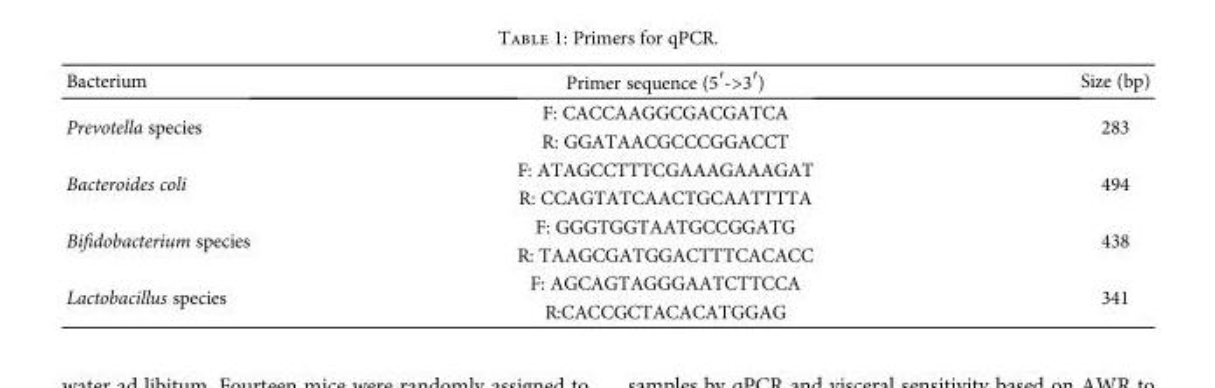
<table><thead><tr><td>Bacterium</td><td>Primer sequence (5′-&gt;3′)</td><td>Size (bp)</td></tr></thead><tbody><tr><td rowspan="2">Prevotella species</td><td>F: CACCAAGGCGACGATCA</td><td rowspan="2">283</td></tr><tr><td>R: GGATAACGCCCGGACCT</td></tr><tr><td rowspan="2">Bacteroides coli</td><td>F: ATAGCCTTTCGAAAGAAAGAT</td><td rowspan="2">494</td></tr><tr><td>R: CCAGTATCAACTGCAATTTTA</td></tr><tr><td rowspan="2">Bifidobacterium species</td><td>F: GGGTGGTAATGCCGGATG</td><td rowspan="2">438</td></tr><tr><td>R: TAAGCGATGGACTTTCACACC</td></tr><tr><td rowspan="2">Lactobacillus species</td><td>F: AGCAGTAGGGAATCTTCCA</td><td rowspan="2">341</td></tr><tr><td>R:CACCGCTACACATGGAG</td></tr></tbody></table>